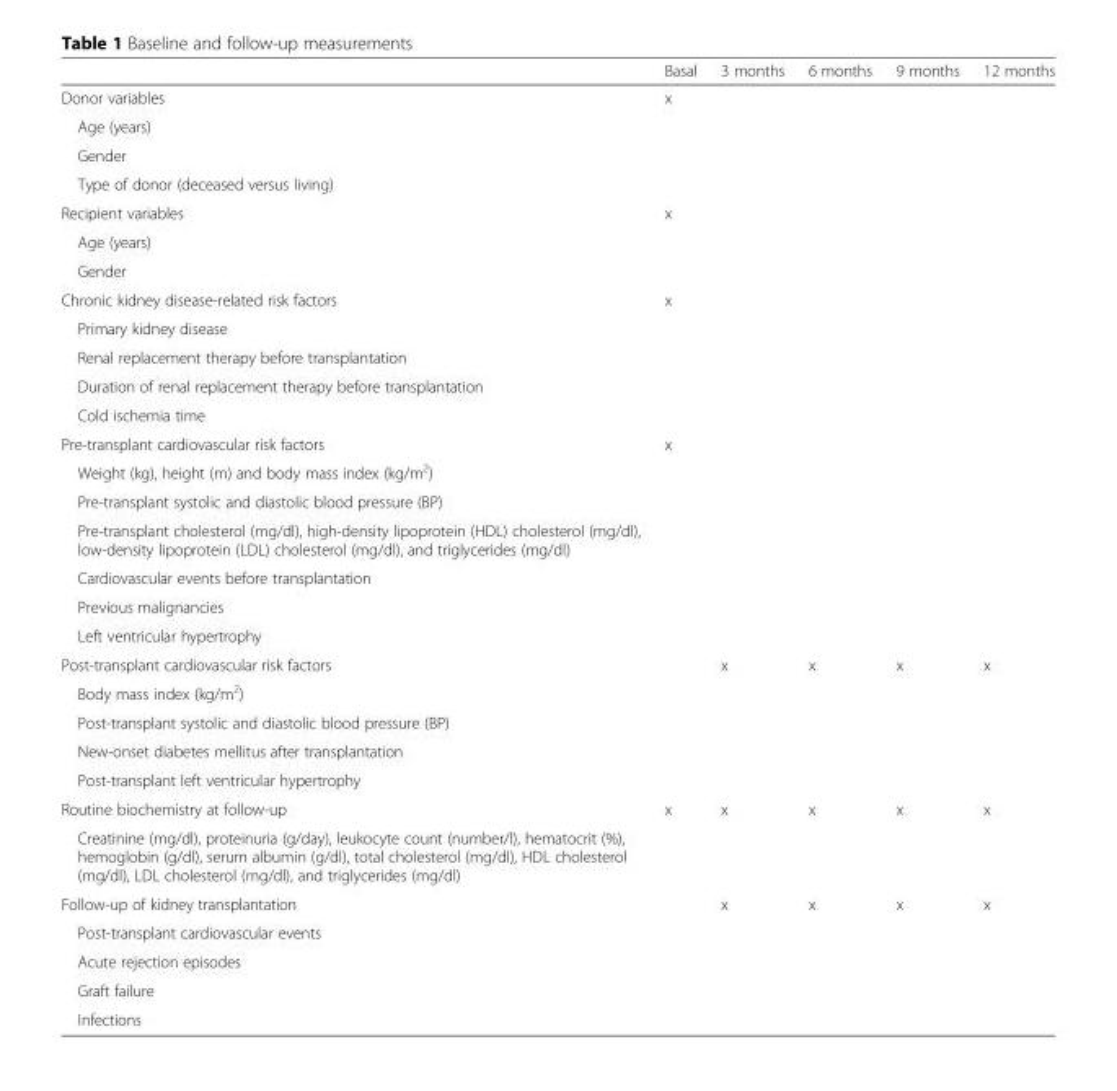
<table><thead><tr><td></td><td>Basal</td><td>3 months</td><td>6 months</td><td>9 months</td><td>12 months</td></tr></thead><tbody><tr><td>Donor variables</td><td>x</td><td></td><td></td><td></td><td></td></tr><tr><td colspan="6">Age (years)</td></tr><tr><td colspan="6">Gender</td></tr><tr><td colspan="6">Type of donor (deceased versus living)</td></tr><tr><td>Recipient variables</td><td>x</td><td></td><td></td><td></td><td></td></tr><tr><td colspan="6">Age (years)</td></tr><tr><td colspan="6">Gender</td></tr><tr><td>Chronic kidney disease-related risk factors</td><td>x</td><td></td><td></td><td></td><td></td></tr><tr><td colspan="6">Primary kidney disease</td></tr><tr><td colspan="6">Renal replacement therapy before transplantation</td></tr><tr><td colspan="6">Duration of renal replacement therapy before transplantation</td></tr><tr><td colspan="6">Cold ischemia time</td></tr><tr><td>Pre-transplant cardiovascular risk factors</td><td>x</td><td></td><td></td><td></td><td></td></tr><tr><td colspan="6">Weight (kg), height (m) and body mass index (kg/m<sup>2</sup>)</td></tr><tr><td colspan="6">Pre-transplant systolic and diastolic blood pressure (BP)</td></tr><tr><td colspan="6">Pre-transplant cholesterol (mg/dl), high-density lipoprotein (HDL) cholesterol (mg/dl), low-density lipoprotein (LDL) cholesterol (mg/dl), and triglycerides (mg/dl)</td></tr><tr><td colspan="6">Cardiovascular events before transplantation</td></tr><tr><td colspan="6">Previous malignancies</td></tr><tr><td colspan="6">Left ventricular hypertrophy</td></tr><tr><td>Post-transplant cardiovascular risk factors</td><td></td><td>x</td><td>x</td><td>x</td><td>x</td></tr><tr><td colspan="6">Body mass index (kg/m<sup>2</sup>)</td></tr><tr><td colspan="6">Post-transplant systolic and diastolic blood pressure (BP)</td></tr><tr><td colspan="6">New-onset diabetes mellitus after transplantation</td></tr><tr><td colspan="6">Post-transplant left ventricular hypertrophy</td></tr><tr><td>Routine biochemistry at follow-up</td><td>x</td><td>x</td><td>x</td><td>x</td><td>x</td></tr><tr><td colspan="6">Creatinine (mg/dl), proteinuria (g/day), leukocyte count (number/l), hematocrit (%), hemoglobin (g/dl), serum albumin (g/dl), total cholesterol (mg/dl), HDL cholesterol (mg/dl), LDL cholesterol (mg/dl), and triglycerides (mg/dl)</td></tr><tr><td>Follow-up of kidney transplantation</td><td></td><td>x</td><td>x</td><td>x</td><td>x</td></tr><tr><td colspan="6">Post-transplant cardiovascular events</td></tr><tr><td colspan="6">Acute rejection episodes</td></tr><tr><td colspan="6">Graft failure</td></tr><tr><td>Infections</td><td></td><td></td><td></td><td></td><td></td></tr></tbody></table>